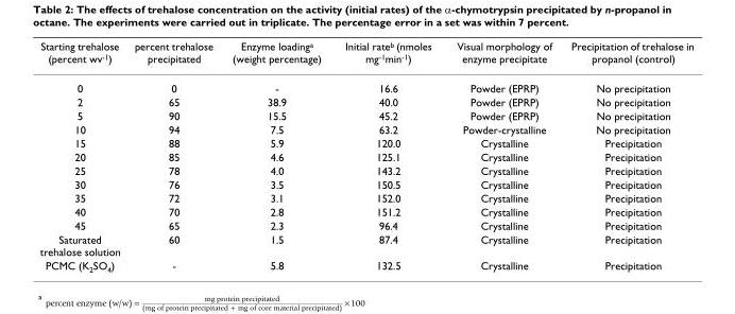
<table><thead><tr><td>Starting trehalose (percent wv<sup>-1</sup>)</td><td>percent trehalose precipitated</td><td>Enzyme loading<sup>a</sup> (weight percentage)</td><td>Initial rate<sup>b</sup> (nmoles mg<sup>-1</sup>min<sup>-1</sup>)</td><td>Visual morphology of enzyme precipitate</td><td>Precipitation of trehalose in propanol (control)</td></tr></thead><tbody><tr><td>0</td><td>0</td><td>-</td><td>16.6</td><td>Powder (EPRP)</td><td>No precipitation</td></tr><tr><td>2</td><td>65</td><td>38.9</td><td>40.0</td><td>Powder (EPRP)</td><td>No precipitation</td></tr><tr><td>5</td><td>90</td><td>15.5</td><td>45.2</td><td>Powder (EPRP)</td><td>No precipitation</td></tr><tr><td>10</td><td>94</td><td>7.5</td><td>63.2</td><td>Powder-crystalline</td><td>No precipitation</td></tr><tr><td>15</td><td>88</td><td>5.9</td><td>120.0</td><td>Crystalline</td><td>Precipitation</td></tr><tr><td>20</td><td>85</td><td>4.6</td><td>125.1</td><td>Crystalline</td><td>Precipitation</td></tr><tr><td>25</td><td>78</td><td>4.0</td><td>143.2</td><td>Crystalline</td><td>Precipitation</td></tr><tr><td>30</td><td>76</td><td>3.5</td><td>150.5</td><td>Crystalline</td><td>Precipitation</td></tr><tr><td>35</td><td>72</td><td>3.1</td><td>152.0</td><td>Crystalline</td><td>Precipitation</td></tr><tr><td>40</td><td>70</td><td>2.8</td><td>151.2</td><td>Crystalline</td><td>Precipitation</td></tr><tr><td>45</td><td>65</td><td>2.3</td><td>96.4</td><td>Crystalline</td><td>Precipitation</td></tr><tr><td>Saturated trehalose solution</td><td>60</td><td>1.5</td><td>87.4</td><td>Crystalline</td><td>Precipitation</td></tr><tr><td>PCMC (K<sub>2</sub>SO<sub>4</sub>)</td><td>-</td><td>5.8</td><td>132.5</td><td>Crystalline</td><td>Precipitation</td></tr></tbody></table>